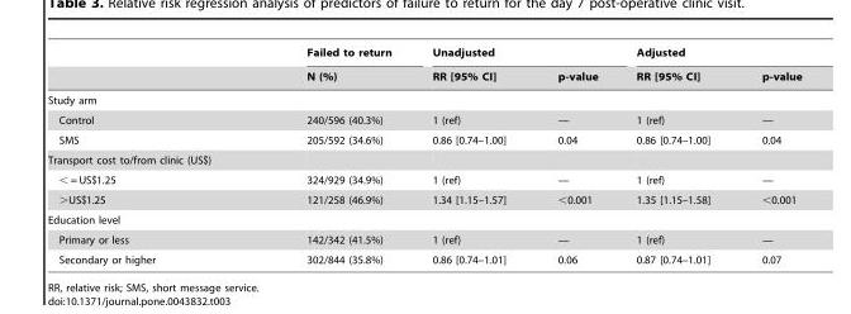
<table><thead><tr><td rowspan="2"></td><td rowspan="2">Failed to return N (%)</td><td colspan="2">Unadjusted</td><td colspan="2">Adjusted</td></tr><tr><td>RR [95% CI]</td><td>p-value</td><td>RR [95% CI]</td><td>p-value</td></tr></thead><tbody><tr><td colspan="6">Study arm</td></tr><tr><td>Control</td><td>240/596 (40.3%)</td><td>1 (ref)</td><td>—</td><td>1 (ref)</td><td>—</td></tr><tr><td>SMS</td><td>205/592 (34.6%)</td><td>0.86 [0.74–1.00]</td><td>0.04</td><td>0.86 [0.74–1.00]</td><td>0.04</td></tr><tr><td colspan="6">Transport cost to/from clinic (US$)</td></tr><tr><td>&lt; = US$1.25</td><td>324/929 (34.9%)</td><td>1 (ref)</td><td>—</td><td>1 (ref)</td><td>—</td></tr><tr><td>&gt;US$1.25</td><td>121/258 (46.9%)</td><td>1.34 [1.15–1.57]</td><td>&lt;0.001</td><td>1.35 [1.15–1.58]</td><td>&lt;0.001</td></tr><tr><td colspan="6">Education level</td></tr><tr><td>Primary or less</td><td>142/342 (41.5%)</td><td>1 (ref)</td><td>—</td><td>1 (ref)</td><td>—</td></tr><tr><td>Secondary or higher</td><td>302/844 (35.8%)</td><td>0.86 [0.74–1.01]</td><td>0.06</td><td>0.87 [0.74–1.01]</td><td>0.07</td></tr></tbody></table>